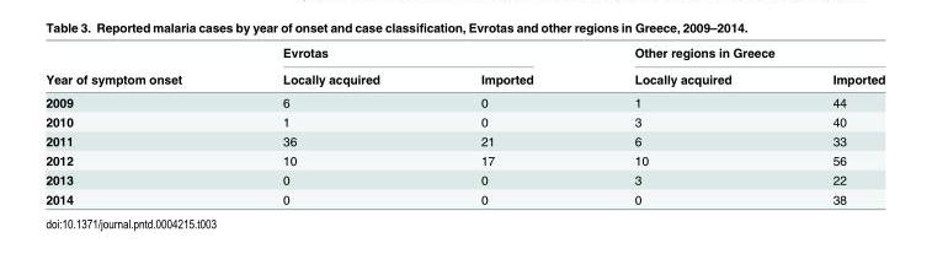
<table><thead><tr><td rowspan="2">Year of symptom onset</td><td colspan="2">Evrotas</td><td colspan="2">Other regions in Greece</td></tr><tr><td>Locally acquired</td><td>Imported</td><td>Locally acquired</td><td>Imported</td></tr></thead><tbody><tr><td>2009</td><td>6</td><td>0</td><td>1</td><td>44</td></tr><tr><td>2010</td><td>1</td><td>0</td><td>3</td><td>40</td></tr><tr><td>2011</td><td>36</td><td>21</td><td>6</td><td>33</td></tr><tr><td>2012</td><td>10</td><td>17</td><td>10</td><td>56</td></tr><tr><td>2013</td><td>0</td><td>0</td><td>3</td><td>22</td></tr><tr><td>2014</td><td>0</td><td>0</td><td>0</td><td>38</td></tr></tbody></table>